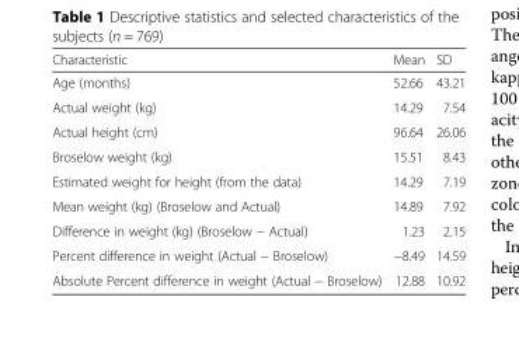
<table><thead><tr><td>Characteristic</td><td>Mean</td><td>SD</td></tr></thead><tbody><tr><td>Age (months)</td><td>52.66</td><td>43.21</td></tr><tr><td>Actual weight (kg)</td><td>14.29</td><td>7.54</td></tr><tr><td>Actual height (cm)</td><td>96.64</td><td>26.06</td></tr><tr><td>Broselow weight (kg)</td><td>15.51</td><td>8.43</td></tr><tr><td>Estimated weight for height (from the data)</td><td>14.29</td><td>7.19</td></tr><tr><td>Mean weight (kg) (Broselow and Actual)</td><td>14.89</td><td>7.92</td></tr><tr><td>Difference in weight (kg) (Broselow − Actual)</td><td>1.23</td><td>2.15</td></tr><tr><td>Percent difference in weight (Actual − Broselow)</td><td>−8.49</td><td>14.59</td></tr><tr><td>Absolute Percent difference in weight (Actual − Broselow)</td><td>12.88</td><td>10.92</td></tr></tbody></table>